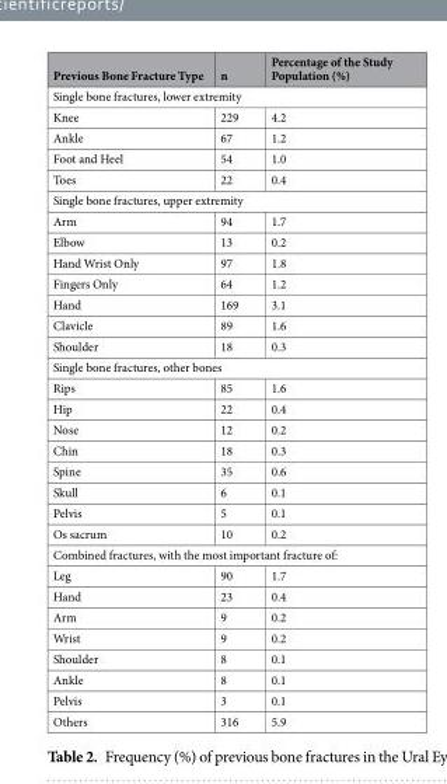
<table><thead><tr><td>Previous Bone Fracture Type</td><td>n</td><td>Percentage of the Study Population (%)</td></tr></thead><tbody><tr><td colspan="3">Single bone fractures, lower extremity</td></tr><tr><td>Knee</td><td>229</td><td>4.2</td></tr><tr><td>Ankle</td><td>67</td><td>1.2</td></tr><tr><td>Foot and Heel</td><td>54</td><td>1.0</td></tr><tr><td>Toes</td><td>22</td><td>0.4</td></tr><tr><td colspan="3">Single bone fractures, upper extremity</td></tr><tr><td>Arm</td><td>94</td><td>1.7</td></tr><tr><td>Elbow</td><td>13</td><td>0.2</td></tr><tr><td>Hand Wrist Only</td><td>97</td><td>1.8</td></tr><tr><td>Fingers Only</td><td>64</td><td>1.2</td></tr><tr><td>Hand</td><td>169</td><td>3.1</td></tr><tr><td>Clavicle</td><td>89</td><td>1.6</td></tr><tr><td>Shoulder</td><td>18</td><td>0.3</td></tr><tr><td colspan="3">Single bone fractures, other bones</td></tr><tr><td>Rips</td><td>85</td><td>1.6</td></tr><tr><td>Hip</td><td>22</td><td>0.4</td></tr><tr><td>Nose</td><td>12</td><td>0.2</td></tr><tr><td>Chin</td><td>18</td><td>0.3</td></tr><tr><td>Spine</td><td>35</td><td>0.6</td></tr><tr><td>Skull</td><td>6</td><td>0.1</td></tr><tr><td>Pelvis</td><td>5</td><td>0.1</td></tr><tr><td>Os sacrum</td><td>10</td><td>0.2</td></tr><tr><td colspan="3">Combined fractures, with the most important fracture of:</td></tr><tr><td>Leg</td><td>90</td><td>1.7</td></tr><tr><td>Hand</td><td>23</td><td>0.4</td></tr><tr><td>Arm</td><td>9</td><td>0.2</td></tr><tr><td>Wrist</td><td>9</td><td>0.2</td></tr><tr><td>Shoulder</td><td>8</td><td>0.1</td></tr><tr><td>Ankle</td><td>8</td><td>0.1</td></tr><tr><td>Pelvis</td><td>3</td><td>0.1</td></tr><tr><td>Others</td><td>316</td><td>5.9</td></tr></tbody></table>